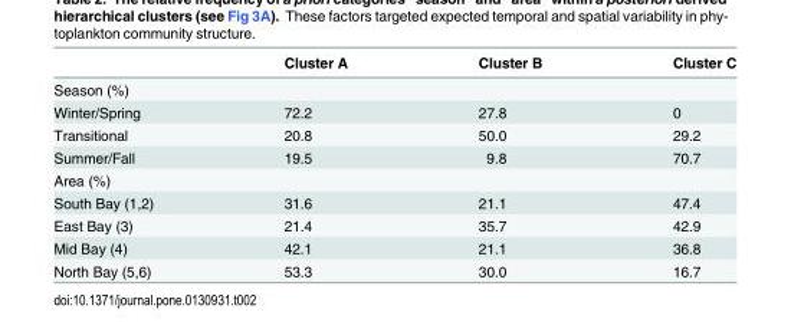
<table><thead><tr><td></td><td>Cluster A</td><td>Cluster B</td><td>Cluster C</td></tr></thead><tbody><tr><td colspan="4">Season (%)</td></tr><tr><td>Winter/Spring</td><td>72.2</td><td>27.8</td><td>0</td></tr><tr><td>Transitional</td><td>20.8</td><td>50.0</td><td>29.2</td></tr><tr><td>Summer/Fall</td><td>19.5</td><td>9.8</td><td>70.7</td></tr><tr><td colspan="4">Area (%)</td></tr><tr><td>South Bay (1,2)</td><td>31.6</td><td>21.1</td><td>47.4</td></tr><tr><td>East Bay (3)</td><td>21.4</td><td>35.7</td><td>42.9</td></tr><tr><td>Mid Bay (4)</td><td>42.1</td><td>21.1</td><td>36.8</td></tr><tr><td>North Bay (5,6)</td><td>53.3</td><td>30.0</td><td>16.7</td></tr></tbody></table>